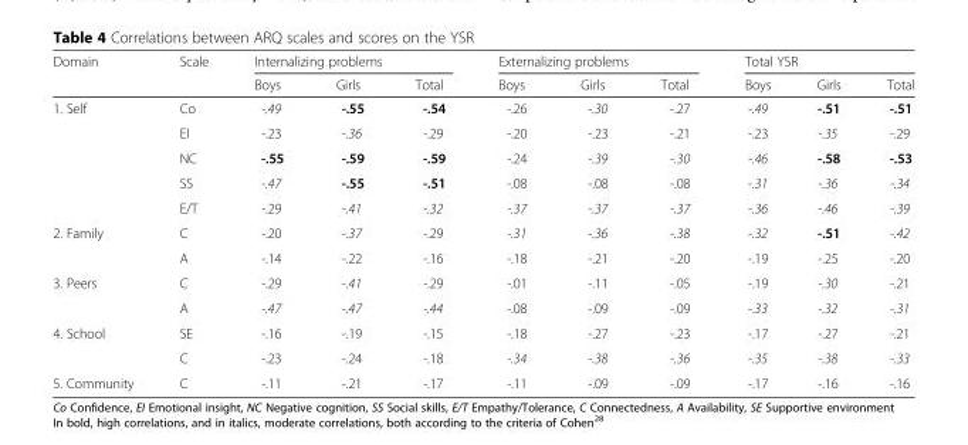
<table><thead><tr><td rowspan="2">Domain</td><td rowspan="2">Scale</td><td colspan="3">Internalizing problems</td><td colspan="3">Externalizing problems</td><td colspan="3">Total YSR</td></tr><tr><td>Boys</td><td>Girls</td><td>Total</td><td>Boys</td><td>Girls</td><td>Total</td><td>Boys</td><td>Girls</td><td>Total</td></tr></thead><tbody><tr><td rowspan="5">1. Self</td><td>Co</td><td>-.49</td><td>-.55</td><td>-.54</td><td>-.26</td><td>-.30</td><td>-.27</td><td>-.49</td><td>-.51</td><td>-.51</td></tr><tr><td>EI</td><td>-.23</td><td>-.36</td><td>-.29</td><td>-.20</td><td>-.23</td><td>-.21</td><td>-.23</td><td>-.35</td><td>-.29</td></tr><tr><td>NC</td><td>-.55</td><td>-.59</td><td>-.59</td><td>-.24</td><td>-.39</td><td>-.30</td><td>-.46</td><td>-.58</td><td>-.53</td></tr><tr><td>SS</td><td>-.47</td><td>-.55</td><td>-.51</td><td>-.08</td><td>-.08</td><td>-.08</td><td>-.31</td><td>-.36</td><td>-.34</td></tr><tr><td>E/T</td><td>-.29</td><td>-.41</td><td>-.32</td><td>-.37</td><td>-.37</td><td>-.37</td><td>-.36</td><td>-.46</td><td>-.39</td></tr><tr><td rowspan="2">2. Family</td><td>C</td><td>-.20</td><td>-.37</td><td>-.29</td><td>-.31</td><td>-.36</td><td>-.38</td><td>-.32</td><td>-.51</td><td>-.42</td></tr><tr><td>A</td><td>-.14</td><td>-.22</td><td>-.16</td><td>-.18</td><td>-.21</td><td>-.20</td><td>-.19</td><td>-.25</td><td>-.20</td></tr><tr><td rowspan="2">3. Peers</td><td>C</td><td>-.29</td><td>-.41</td><td>-.29</td><td>-.01</td><td>-.11</td><td>-.05</td><td>-.19</td><td>-.30</td><td>-.21</td></tr><tr><td>A</td><td>-.47</td><td>-.47</td><td>-.44</td><td>-.08</td><td>-.09</td><td>-.09</td><td>-.33</td><td>-.32</td><td>-.31</td></tr><tr><td rowspan="2">4. School</td><td>SE</td><td>-.16</td><td>-.19</td><td>-.15</td><td>-.18</td><td>-.27</td><td>-.23</td><td>-.17</td><td>-.27</td><td>-.21</td></tr><tr><td>C</td><td>-.23</td><td>-.24</td><td>-.18</td><td>-.34</td><td>-.38</td><td>-.36</td><td>-.35</td><td>-.38</td><td>-.33</td></tr><tr><td>5. Community</td><td>C</td><td>-.11</td><td>-.21</td><td>-.17</td><td>-.11</td><td>-.09</td><td>-.09</td><td>-.17</td><td>-.16</td><td>-.16</td></tr></tbody></table>